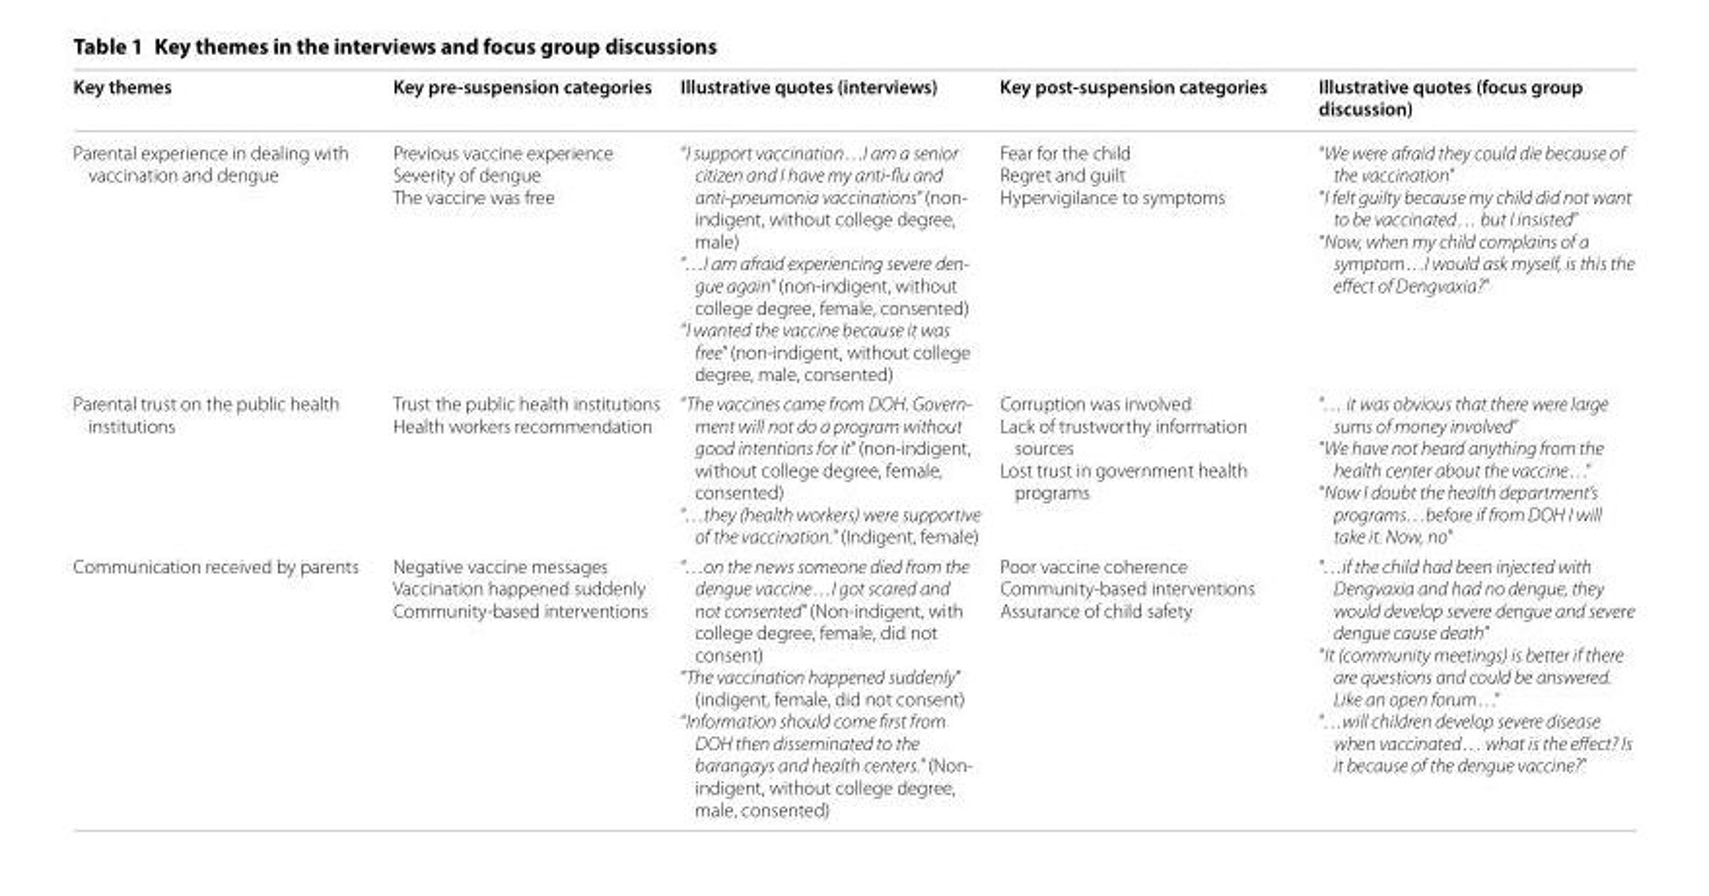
<table><thead><tr><td>Key themes</td><td>Key pre-suspension categories</td><td>Illustrative quotes (interviews)</td><td>Key post-suspension categories</td><td>Illustrative quotes (focus group discussion)</td></tr></thead><tbody><tr><td>Parental experience in dealing with vaccination and dengue</td><td>Previous vaccine experience Severity of dengue The vaccine was free</td><td>“I support vaccination…I am a senior citizen and I have my anti-flu and anti-pneumonia vaccinations” (non- indigent, without college degree, male) “…I am afraid experiencing severe den- gue again” (non-indigent, without college degree, female, consented) “I wanted the vaccine because it was free” (non-indigent, without college degree, male, consented)</td><td>Fear for the child Regret and guilt Hypervigilance to symptoms</td><td>“We were afraid they could die because of the vaccination” “I felt guilty because my child did not want to be vaccinated… but I insisted” “Now, when my child complains of a symptom…I would ask myself, is this the effect of Dengvaxia?”</td></tr><tr><td>Parental trust on the public health institutions</td><td>Trust the public health institutions Health workers recommendation</td><td>“The vaccines came from DOH. Govern- ment will not do a program without good intentions for it” (non-indigent, without college degree, female, consented) “…they (health workers) were supportive of the vaccination.” (Indigent, female)</td><td>Corruption was involved Lack of trustworthy information sources Lost trust in government health programs</td><td>“… it was obvious that there were large sums of money involved” “We have not heard anything from the health center about the vaccine…” “Now I doubt the health department’s programs…before if from DOH I will take it. Now, no”</td></tr><tr><td>Communication received by parents</td><td>Negative vaccine messages Vaccination happened suddenly Community-based interventions</td><td>“…on the news someone died from the dengue vaccine…I got scared and not consented” (Non-indigent, with college degree, female, did not consent) “The vaccination happened suddenly” (indigent, female, did not consent) “Information should come first from DOH then disseminated to the barangays and health centers.” (Non- indigent, without college degree, male, consented)</td><td>Poor vaccine coherence Community-based interventions Assurance of child safety</td><td>“…if the child had been injected with Dengvaxia and had no dengue, they would develop severe dengue and severe dengue cause death” “It (community meetings) is better if there are questions and could be answered. Like an open forum…” “…will children develop severe disease when vaccinated… what is the effect? Is it because of the dengue vaccine?”</td></tr></tbody></table>